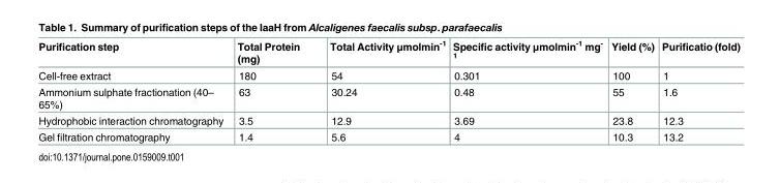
<table><thead><tr><td>Purification step</td><td>Total Protein (mg)</td><td>Total Activity μmolmin<sup>-1</sup></td><td>Specific activity μmolmin<sup>-1</sup> mg<sup>- 1</sup></td><td>Yield (%)</td><td>Purificatio (fold)</td></tr></thead><tbody><tr><td>Cell-free extract</td><td>180</td><td>54</td><td>0.301</td><td>100</td><td>1</td></tr><tr><td>Ammonium sulphate fractionation (40– 65%)</td><td>63</td><td>30.24</td><td>0.48</td><td>55</td><td>1.6</td></tr><tr><td>Hydrophobic interaction chromatography</td><td>3.5</td><td>12.9</td><td>3.69</td><td>23.8</td><td>12.3</td></tr><tr><td>Gel filtration chromatography</td><td>1.4</td><td>5.6</td><td>4</td><td>10.3</td><td>13.2</td></tr></tbody></table>